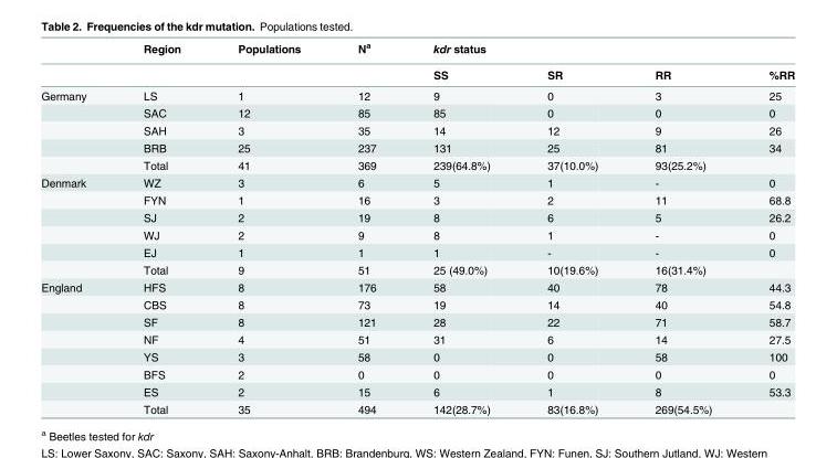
<table><thead><tr><td rowspan="2"></td><td rowspan="2">Region</td><td rowspan="2">Populations</td><td rowspan="2">N<sup>a</sup></td><td rowspan="2">kdr status SS</td><td rowspan="2">SR</td><td rowspan="2">RR</td><td rowspan="2">%RR</td></tr><tr></tr></thead><tbody><tr><td rowspan="5">Germany</td><td>LS</td><td>1</td><td>12</td><td>9</td><td>0</td><td>3</td><td>25</td></tr><tr><td>SAC</td><td>12</td><td>85</td><td>85</td><td>0</td><td>0</td><td>0</td></tr><tr><td>SAH</td><td>3</td><td>35</td><td>14</td><td>12</td><td>9</td><td>26</td></tr><tr><td>BRB</td><td>25</td><td>237</td><td>131</td><td>25</td><td>81</td><td>34</td></tr><tr><td>Total</td><td>41</td><td>369</td><td>239(64.8%)</td><td>37(10.0%)</td><td>93(25.2%)</td><td></td></tr><tr><td rowspan="6">Denmark</td><td>WZ</td><td>3</td><td>6</td><td>5</td><td>1</td><td>-</td><td>0</td></tr><tr><td>FYN</td><td>1</td><td>16</td><td>3</td><td>2</td><td>11</td><td>68.8</td></tr><tr><td>SJ</td><td>2</td><td>19</td><td>8</td><td>6</td><td>5</td><td>26.2</td></tr><tr><td>WJ</td><td>2</td><td>9</td><td>8</td><td>1</td><td>-</td><td>0</td></tr><tr><td>EJ</td><td>1</td><td>1</td><td>1</td><td>-</td><td>-</td><td>0</td></tr><tr><td>Total</td><td>9</td><td>51</td><td>25 (49.0%)</td><td>10(19.6%)</td><td>16(31.4%)</td><td></td></tr><tr><td rowspan="8">England</td><td>HFS</td><td>8</td><td>176</td><td>58</td><td>40</td><td>78</td><td>44.3</td></tr><tr><td>CBS</td><td>8</td><td>73</td><td>19</td><td>14</td><td>40</td><td>54.8</td></tr><tr><td>SF</td><td>8</td><td>121</td><td>28</td><td>22</td><td>71</td><td>58.7</td></tr><tr><td>NF</td><td>4</td><td>51</td><td>31</td><td>6</td><td>14</td><td>27.5</td></tr><tr><td>YS</td><td>3</td><td>58</td><td>0</td><td>0</td><td>58</td><td>100</td></tr><tr><td>BFS</td><td>2</td><td>0</td><td>0</td><td>0</td><td>0</td><td>0</td></tr><tr><td>ES</td><td>2</td><td>15</td><td>6</td><td>1</td><td>8</td><td>53.3</td></tr><tr><td>Total</td><td>35</td><td>494</td><td>142(28.7%)</td><td>83(16.8%)</td><td>269(54.5%)</td><td></td></tr></tbody></table>